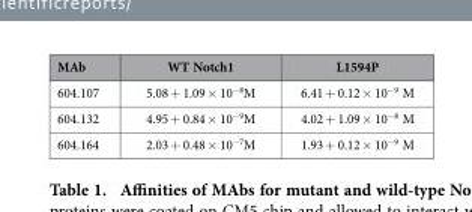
<table><thead><tr><td>MAb</td><td>WT Notch1</td><td>L1594P</td></tr></thead><tbody><tr><td>604.107</td><td>5.08 + 1.09 × 10<sup>−8</sup>M</td><td>6.41 + 0.12 × 10<sup>−9</sup> M</td></tr><tr><td>604.132</td><td>4.95 + 0.84 × 10<sup>−9</sup>M</td><td>4.02 + 1.09 × 10<sup>−8</sup> M</td></tr><tr><td>604.164</td><td>2.03 + 0.48 × 10<sup>−7</sup>M</td><td>1.93 + 0.12 × 10<sup>−9</sup> M</td></tr></tbody></table>